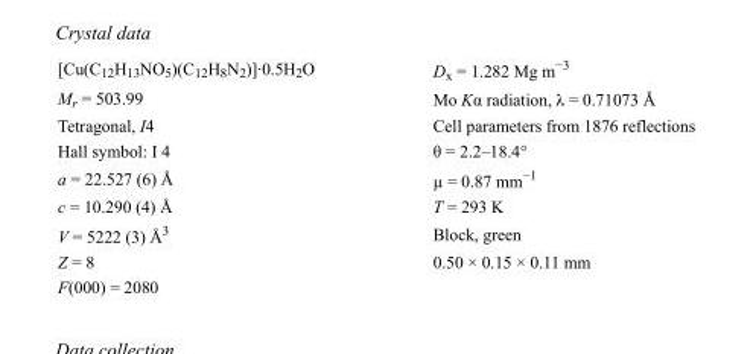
<table><tbody><tr><td>[Cu(C<sub>12</sub>H<sub>13</sub>NO<sub>5</sub>)(C<sub>12</sub>H<sub>8</sub>N<sub>2</sub>)]·0.5H<sub>2</sub>O</td><td>D<sub>x</sub> = 1.282 Mg m<sup>−3</sup></td></tr><tr><td>M<sub>r</sub> = 503.99</td><td>Mo Kα radiation, λ = 0.71073 Å</td></tr><tr><td>Tetragonal, I4</td><td>Cell parameters from 1876 reflections</td></tr><tr><td>Hall symbol: I 4</td><td>θ = 2.2–18.4°</td></tr><tr><td>a = 22.527 (6) Å</td><td>µ = 0.87 mm<sup>−1</sup></td></tr><tr><td>c = 10.290 (4) Å</td><td>T = 293 K</td></tr><tr><td>V = 5222 (3) Å<sup>3</sup></td><td>Block, green</td></tr><tr><td>Z = 8</td><td>0.50 × 0.15 × 0.11 mm</td></tr><tr><td>F(000) = 2080</td><td></td></tr></tbody></table>